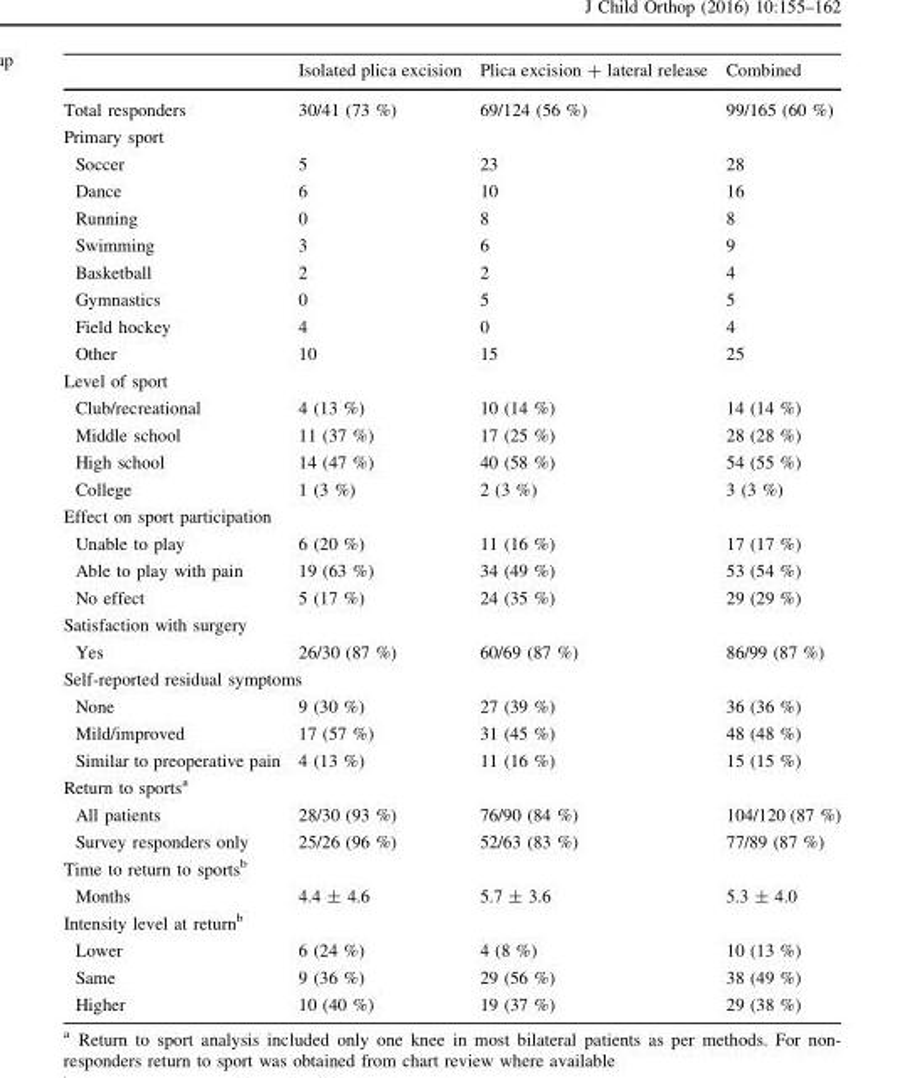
<table><thead><tr><td></td><td>Isolated plica excision</td><td>Plica excision + lateral release</td><td>Combined</td></tr></thead><tbody><tr><td>Total responders</td><td>30/41 (73 %)</td><td>69/124 (56 %)</td><td>99/165 (60 %)</td></tr><tr><td colspan="4">Primary sport</td></tr><tr><td>Soccer</td><td>5</td><td>23</td><td>28</td></tr><tr><td>Dance</td><td>6</td><td>10</td><td>16</td></tr><tr><td>Running</td><td>0</td><td>8</td><td>8</td></tr><tr><td>Swimming</td><td>3</td><td>6</td><td>9</td></tr><tr><td>Basketball</td><td>2</td><td>2</td><td>4</td></tr><tr><td>Gymnastics</td><td>0</td><td>5</td><td>5</td></tr><tr><td>Field hockey</td><td>4</td><td>0</td><td>4</td></tr><tr><td>Other</td><td>10</td><td>15</td><td>25</td></tr><tr><td colspan="4">Level of sport</td></tr><tr><td>Club/recreational</td><td>4 (13 %)</td><td>10 (14 %)</td><td>14 (14 %)</td></tr><tr><td>Middle school</td><td>11 (37 %)</td><td>17 (25 %)</td><td>28 (28 %)</td></tr><tr><td>High school</td><td>14 (47 %)</td><td>40 (58 %)</td><td>54 (55 %)</td></tr><tr><td>College</td><td>1 (3 %)</td><td>2 (3 %)</td><td>3 (3 %)</td></tr><tr><td colspan="4">Effect on sport participation</td></tr><tr><td>Unable to play</td><td>6 (20 %)</td><td>11 (16 %)</td><td>17 (17 %)</td></tr><tr><td>Able to play with pain</td><td>19 (63 %)</td><td>34 (49 %)</td><td>53 (54 %)</td></tr><tr><td>No effect</td><td>5 (17 %)</td><td>24 (35 %)</td><td>29 (29 %)</td></tr><tr><td colspan="4">Satisfaction with surgery</td></tr><tr><td>Yes</td><td>26/30 (87 %)</td><td>60/69 (87 %)</td><td>86/99 (87 %)</td></tr><tr><td colspan="4">Self-reported residual symptoms</td></tr><tr><td>None</td><td>9 (30 %)</td><td>27 (39 %)</td><td>36 (36 %)</td></tr><tr><td>Mild/improved</td><td>17 (57 %)</td><td>31 (45 %)</td><td>48 (48 %)</td></tr><tr><td>Similar to preoperative pain</td><td>4 (13 %)</td><td>11 (16 %)</td><td>15 (15 %)</td></tr><tr><td colspan="4">Return to sports<sup>a</sup></td></tr><tr><td>All patients</td><td>28/30 (93 %)</td><td>76/90 (84 %)</td><td>104/120 (87 %)</td></tr><tr><td>Survey responders only</td><td>25/26 (96 %)</td><td>52/63 (83 %)</td><td>77/89 (87 %)</td></tr><tr><td colspan="4">Time to return to sports<sup>b</sup></td></tr><tr><td>Months</td><td>4.4 ± 4.6</td><td>5.7 ± 3.6</td><td>5.3 ± 4.0</td></tr><tr><td colspan="4">Intensity level at return<sup>b</sup></td></tr><tr><td>Lower</td><td>6 (24 %)</td><td>4 (8 %)</td><td>10 (13 %)</td></tr><tr><td>Same</td><td>9 (36 %)</td><td>29 (56 %)</td><td>38 (49 %)</td></tr><tr><td>Higher</td><td>10 (40 %)</td><td>19 (37 %)</td><td>29 (38 %)</td></tr></tbody></table>